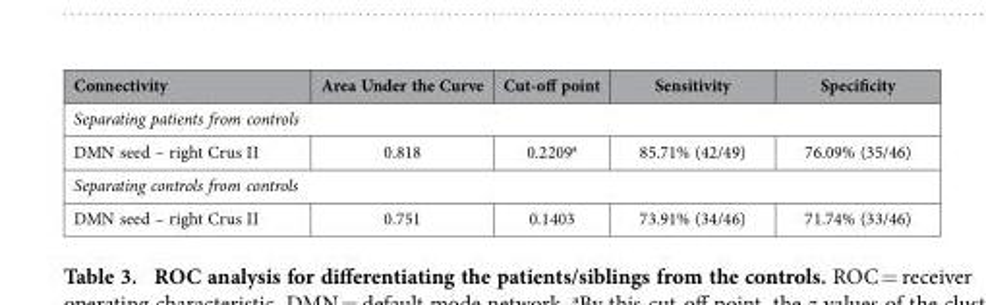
<table><thead><tr><td>Connectivity</td><td>Area Under the Curve</td><td>Cut-off point</td><td>Sensitivity</td><td>Specificity</td></tr></thead><tbody><tr><td colspan="5">Separating patients from controls</td></tr><tr><td>DMN seed – right Crus II</td><td>0.818</td><td>0.2209<sup>a</sup></td><td>85.71% (42/49)</td><td>76.09% (35/46)</td></tr><tr><td colspan="5">Separating controls from controls</td></tr><tr><td>DMN seed – right Crus II</td><td>0.751</td><td>0.1403</td><td>73.91% (34/46)</td><td>71.74% (33/46)</td></tr></tbody></table>